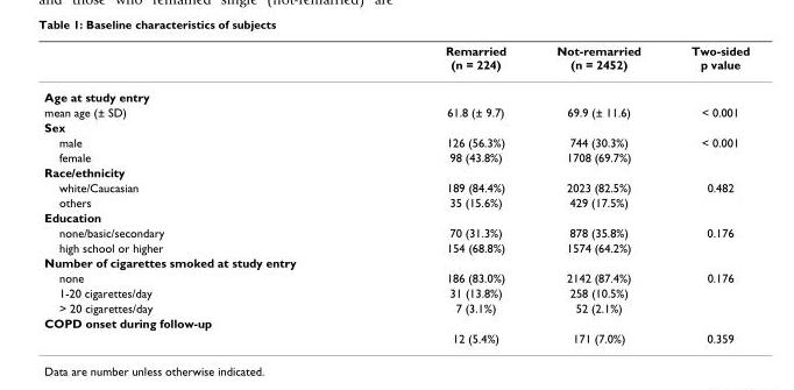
<table><thead><tr><td></td><td>Remarried (n = 224)</td><td>Not-remarried (n = 2452)</td><td>Two-sided p value</td></tr></thead><tbody><tr><td colspan="4">Age at study entry</td></tr><tr><td>mean age (± SD)</td><td>61.8 (± 9.7)</td><td>69.9 (± 11.6)</td><td>&lt; 0.001</td></tr><tr><td colspan="4">Sex</td></tr><tr><td>male</td><td>126 (56.3%)</td><td>744 (30.3%)</td><td>&lt; 0.001</td></tr><tr><td>female</td><td>98 (43.8%)</td><td>1708 (69.7%)</td><td></td></tr><tr><td colspan="4">Race/ethnicity</td></tr><tr><td>white/Caucasian</td><td>189 (84.4%)</td><td>2023 (82.5%)</td><td>0.482</td></tr><tr><td>others</td><td>35 (15.6%)</td><td>429 (17.5%)</td><td></td></tr><tr><td colspan="4">Education</td></tr><tr><td>none/basic/secondary</td><td>70 (31.3%)</td><td>878 (35.8%)</td><td>0.176</td></tr><tr><td>high school or higher</td><td>154 (68.8%)</td><td>1574 (64.2%)</td><td></td></tr><tr><td colspan="4">Number of cigarettes smoked at study entry</td></tr><tr><td>none</td><td>186 (83.0%)</td><td>2142 (87.4%)</td><td>0.176</td></tr><tr><td>1-20 cigarettes/day</td><td>31 (13.8%)</td><td>258 (10.5%)</td><td></td></tr><tr><td>&gt; 20 cigarettes/day</td><td>7 (3.1%)</td><td>52 (2.1%)</td><td></td></tr><tr><td colspan="4">COPD onset during follow-up</td></tr><tr><td></td><td>12 (5.4%)</td><td>171 (7.0%)</td><td>0.359</td></tr></tbody></table>